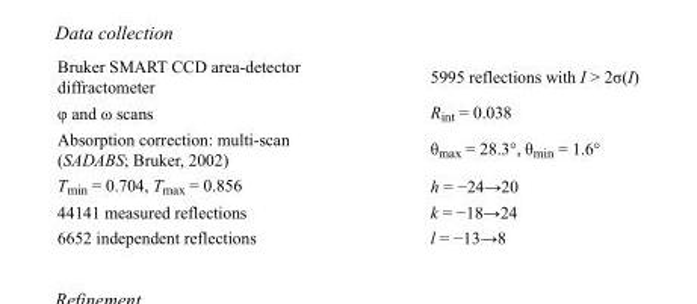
<table><tbody><tr><td>Bruker SMART CCD area-detector diffractometer</td><td>5995 reflections with I &gt; 2σ(I)</td></tr><tr><td>φ and ω scans</td><td>R<sub>int</sub> = 0.038</td></tr><tr><td>Absorption correction: multi-scan (SADABS; Bruker, 2002)</td><td>θ<sub>max</sub> = 28.3°, θ<sub>min</sub> = 1.6°</td></tr><tr><td>T<sub>min</sub> = 0.704, T<sub>max</sub> = 0.856</td><td>h = −24→20</td></tr><tr><td>44141 measured reflections</td><td>k = −18→24</td></tr><tr><td>6652 independent reflections</td><td>l = −13→8</td></tr></tbody></table>